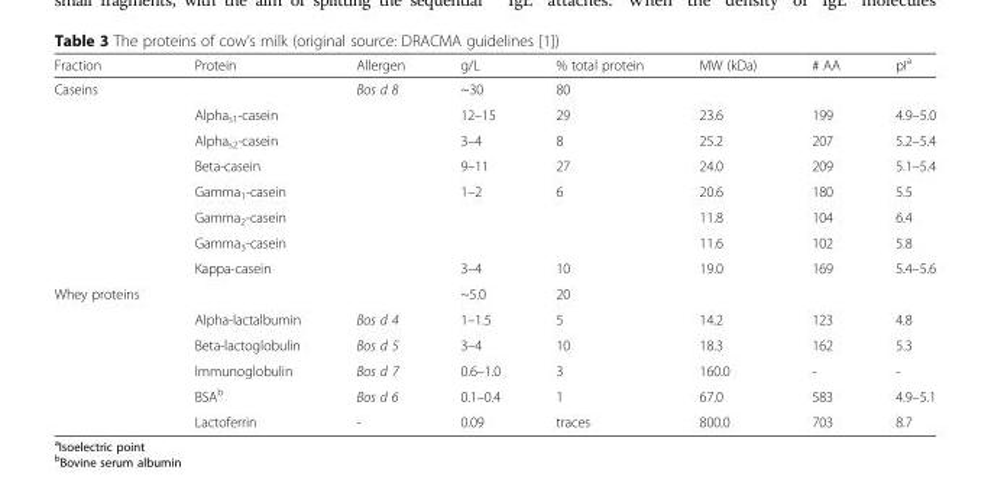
<table><thead><tr><td>Fraction</td><td>Protein</td><td>Allergen</td><td>g/L</td><td>% total protein</td><td>MW (kDa)</td><td># AA</td><td>pI<sup>a</sup></td></tr></thead><tbody><tr><td rowspan="8">Caseins</td><td></td><td rowspan="5">Bos d 8</td><td>~30</td><td>80</td><td></td><td></td><td></td></tr><tr><td>Alpha<sub>s1</sub>-casein</td><td>12–15</td><td>29</td><td>23.6</td><td>199</td><td>4.9–5.0</td></tr><tr><td>Alpha<sub>s2</sub>-casein</td><td>3–4</td><td>8</td><td>25.2</td><td>207</td><td>5.2–5.4</td></tr><tr><td>Beta-casein</td><td>9–11</td><td>27</td><td>24.0</td><td>209</td><td>5.1–5.4</td></tr><tr><td>Gamma<sub>1</sub>-casein</td><td>1–2</td><td>6</td><td>20.6</td><td>180</td><td>5.5</td></tr><tr><td>Gamma<sub>2</sub>-casein</td><td></td><td></td><td></td><td>11.8</td><td>104</td><td>6.4</td></tr><tr><td>Gamma<sub>3</sub>-casein</td><td rowspan="2"></td><td></td><td></td><td>11.6</td><td>102</td><td>5.8</td></tr><tr><td>Kappa-casein</td><td>3–4</td><td>10</td><td>19.0</td><td>169</td><td>5.4–5.6</td></tr><tr><td rowspan="6">Whey proteins</td><td></td><td></td><td>~5.0</td><td>20</td><td></td><td></td><td></td></tr><tr><td>Alpha-lactalbumin</td><td>Bos d 4</td><td>1–1.5</td><td>5</td><td>14.2</td><td>123</td><td>4.8</td></tr><tr><td>Beta-lactoglobulin</td><td>Bos d 5</td><td>3–4</td><td>10</td><td>18.3</td><td>162</td><td>5.3</td></tr><tr><td>Immunoglobulin</td><td>Bos d 7</td><td>0.6–1.0</td><td>3</td><td>160.0</td><td>-</td><td>-</td></tr><tr><td>BSA<sup>b</sup></td><td>Bos d 6</td><td>0.1–0.4</td><td>1</td><td>67.0</td><td>583</td><td>4.9–5.1</td></tr><tr><td>Lactoferrin</td><td>-</td><td>0.09</td><td>traces</td><td>800.0</td><td>703</td><td>8.7</td></tr></tbody></table>